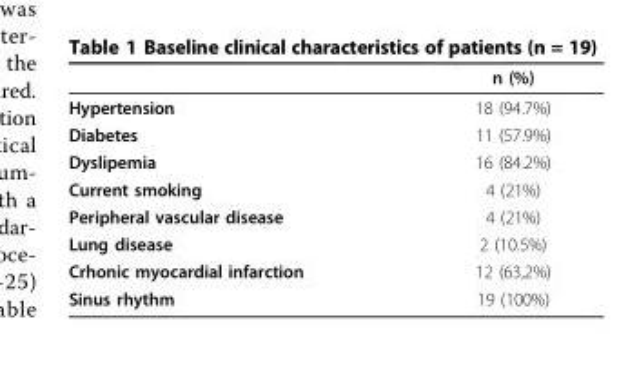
<table><thead><tr><td></td><td>n (%)</td></tr></thead><tbody><tr><td>Hypertension</td><td>18 (94.7%)</td></tr><tr><td>Diabetes</td><td>11 (57.9%)</td></tr><tr><td>Dyslipemia</td><td>16 (84.2%)</td></tr><tr><td>Current smoking</td><td>4 (21%)</td></tr><tr><td>Peripheral vascular disease</td><td>4 (21%)</td></tr><tr><td>Lung disease</td><td>2 (10.5%)</td></tr><tr><td>Crhonic myocardial infarction</td><td>12 (63,2%)</td></tr><tr><td>Sinus rhythm</td><td>19 (100%)</td></tr></tbody></table>